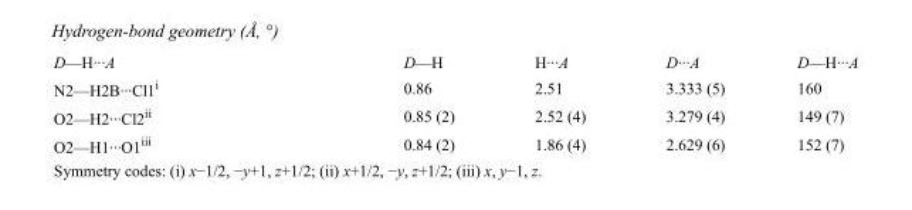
<table><tbody><tr><td>D—H···A</td><td>D—H</td><td>H···A</td><td>D···A</td><td>D—H···A</td></tr><tr><td>N2—H2B···Cl1<sup>i</sup></td><td>0.86</td><td>2.51</td><td>3.333 (5)</td><td>160</td></tr><tr><td>O2—H2···Cl2<sup>ii</sup></td><td>0.85 (2)</td><td>2.52 (4)</td><td>3.279 (4)</td><td>149 (7)</td></tr><tr><td>O2—H1···O1<sup>iii</sup></td><td>0.84 (2)</td><td>1.86 (4)</td><td>2.629 (6)</td><td>152 (7)</td></tr></tbody></table>